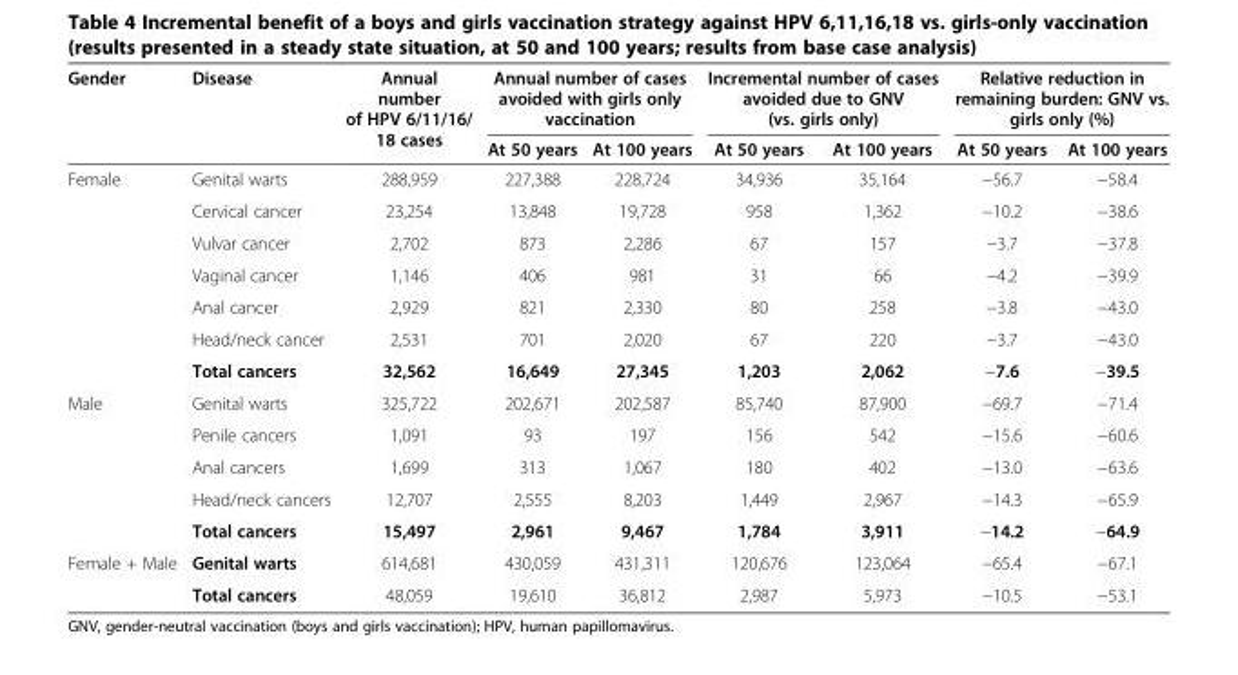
<table><thead><tr><td rowspan="2">Gender</td><td rowspan="2">Disease</td><td rowspan="2">Annual number of HPV 6/11/16/ 18 cases</td><td colspan="2">Annual number of cases avoided with girls only vaccination</td><td colspan="2">Incremental number of cases avoided due to GNV (vs. girls only)</td><td colspan="2">Relative reduction in remaining burden: GNV vs. girls only (%)</td></tr><tr><td>At 50 years</td><td>At 100 years</td><td>At 50 years</td><td>At 100 years</td><td>At 50 years</td><td>At 100 years</td></tr></thead><tbody><tr><td rowspan="7">Female</td><td>Genital warts</td><td>288,959</td><td>227,388</td><td>228,724</td><td>34,936</td><td>35,164</td><td>−56.7</td><td>−58.4</td></tr><tr><td>Cervical cancer</td><td>23,254</td><td>13,848</td><td>19,728</td><td>958</td><td>1,362</td><td>−10.2</td><td>−38.6</td></tr><tr><td>Vulvar cancer</td><td>2,702</td><td>873</td><td>2,286</td><td>67</td><td>157</td><td>−3.7</td><td>−37.8</td></tr><tr><td>Vaginal cancer</td><td>1,146</td><td>406</td><td>981</td><td>31</td><td>66</td><td>−4.2</td><td>−39.9</td></tr><tr><td>Anal cancer</td><td>2,929</td><td>821</td><td>2,330</td><td>80</td><td>258</td><td>−3.8</td><td>−43.0</td></tr><tr><td>Head/neck cancer</td><td>2,531</td><td>701</td><td>2,020</td><td>67</td><td>220</td><td>−3.7</td><td>−43.0</td></tr><tr><td>Total cancers</td><td>32,562</td><td>16,649</td><td>27,345</td><td>1,203</td><td>2,062</td><td>−7.6</td><td>−39.5</td></tr><tr><td rowspan="5">Male</td><td>Genital warts</td><td>325,722</td><td>202,671</td><td>202,587</td><td>85,740</td><td>87,900</td><td>−69.7</td><td>−71.4</td></tr><tr><td>Penile cancers</td><td>1,091</td><td>93</td><td>197</td><td>156</td><td>542</td><td>−15.6</td><td>−60.6</td></tr><tr><td>Anal cancers</td><td>1,699</td><td>313</td><td>1,067</td><td>180</td><td>402</td><td>−13.0</td><td>−63.6</td></tr><tr><td>Head/neck cancers</td><td>12,707</td><td>2,555</td><td>8,203</td><td>1,449</td><td>2,967</td><td>−14.3</td><td>−65.9</td></tr><tr><td>Total cancers</td><td>15,497</td><td>2,961</td><td>9,467</td><td>1,784</td><td>3,911</td><td>−14.2</td><td>−64.9</td></tr><tr><td rowspan="2">Female + Male</td><td>Genital warts</td><td>614,681</td><td>430,059</td><td>431,311</td><td>120,676</td><td>123,064</td><td>−65.4</td><td>−67.1</td></tr><tr><td>Total cancers</td><td>48,059</td><td>19,610</td><td>36,812</td><td>2,987</td><td>5,973</td><td>−10.5</td><td>−53.1</td></tr></tbody></table>